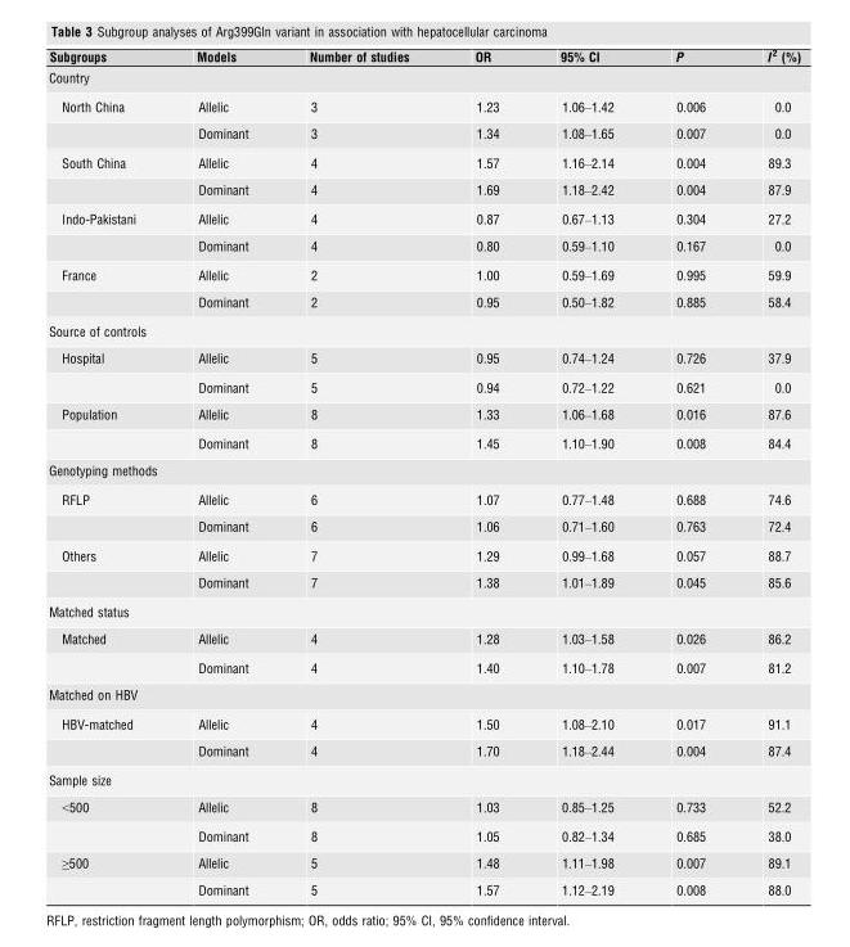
<table><thead><tr><td>Subgroups</td><td>Models</td><td>Number of studies</td><td>OR</td><td>95% CI</td><td>P</td><td>I <sup>2</sup> (%)</td></tr></thead><tbody><tr><td colspan="7">Country</td></tr><tr><td rowspan="2">North China</td><td>Allelic</td><td>3</td><td>1.23</td><td>1.06–1.42</td><td>0.006</td><td>0.0</td></tr><tr><td>Dominant</td><td>3</td><td>1.34</td><td>1.08–1.65</td><td>0.007</td><td>0.0</td></tr><tr><td rowspan="2">South China</td><td>Allelic</td><td>4</td><td>1.57</td><td>1.16–2.14</td><td>0.004</td><td>89.3</td></tr><tr><td>Dominant</td><td>4</td><td>1.69</td><td>1.18–2.42</td><td>0.004</td><td>87.9</td></tr><tr><td rowspan="2">Indo-Pakistani</td><td>Allelic</td><td>4</td><td>0.87</td><td>0.67–1.13</td><td>0.304</td><td>27.2</td></tr><tr><td>Dominant</td><td>4</td><td>0.80</td><td>0.59–1.10</td><td>0.167</td><td>0.0</td></tr><tr><td rowspan="2">France</td><td>Allelic</td><td>2</td><td>1.00</td><td>0.59–1.69</td><td>0.995</td><td>59.9</td></tr><tr><td>Dominant</td><td>2</td><td>0.95</td><td>0.50–1.82</td><td>0.885</td><td>58.4</td></tr><tr><td colspan="7">Source of controls</td></tr><tr><td rowspan="2">Hospital</td><td>Allelic</td><td>5</td><td>0.95</td><td>0.74–1.24</td><td>0.726</td><td>37.9</td></tr><tr><td>Dominant</td><td>5</td><td>0.94</td><td>0.72–1.22</td><td>0.621</td><td>0.0</td></tr><tr><td rowspan="2">Population</td><td>Allelic</td><td>8</td><td>1.33</td><td>1.06–1.68</td><td>0.016</td><td>87.6</td></tr><tr><td>Dominant</td><td>8</td><td>1.45</td><td>1.10–1.90</td><td>0.008</td><td>84.4</td></tr><tr><td colspan="7">Genotyping methods</td></tr><tr><td rowspan="2">RFLP</td><td>Allelic</td><td>6</td><td>1.07</td><td>0.77–1.48</td><td>0.688</td><td>74.6</td></tr><tr><td>Dominant</td><td>6</td><td>1.06</td><td>0.71–1.60</td><td>0.763</td><td>72.4</td></tr><tr><td rowspan="2">Others</td><td>Allelic</td><td>7</td><td>1.29</td><td>0.99–1.68</td><td>0.057</td><td>88.7</td></tr><tr><td>Dominant</td><td>7</td><td>1.38</td><td>1.01–1.89</td><td>0.045</td><td>85.6</td></tr><tr><td colspan="7">Matched status</td></tr><tr><td rowspan="2">Matched</td><td>Allelic</td><td>4</td><td>1.28</td><td>1.03–1.58</td><td>0.026</td><td>86.2</td></tr><tr><td>Dominant</td><td>4</td><td>1.40</td><td>1.10–1.78</td><td>0.007</td><td>81.2</td></tr><tr><td colspan="7">Matched on HBV</td></tr><tr><td rowspan="2">HBV-matched</td><td>Allelic</td><td>4</td><td>1.50</td><td>1.08–2.10</td><td>0.017</td><td>91.1</td></tr><tr><td>Dominant</td><td>4</td><td>1.70</td><td>1.18–2.44</td><td>0.004</td><td>87.4</td></tr><tr><td colspan="7">Sample size</td></tr><tr><td rowspan="2">&lt;500</td><td>Allelic</td><td>8</td><td>1.03</td><td>0.85–1.25</td><td>0.733</td><td>52.2</td></tr><tr><td>Dominant</td><td>8</td><td>1.05</td><td>0.82–1.34</td><td>0.685</td><td>38.0</td></tr><tr><td rowspan="2">≥500</td><td>Allelic</td><td>5</td><td>1.48</td><td>1.11–1.98</td><td>0.007</td><td>89.1</td></tr><tr><td>Dominant</td><td>5</td><td>1.57</td><td>1.12–2.19</td><td>0.008</td><td>88.0</td></tr></tbody></table>